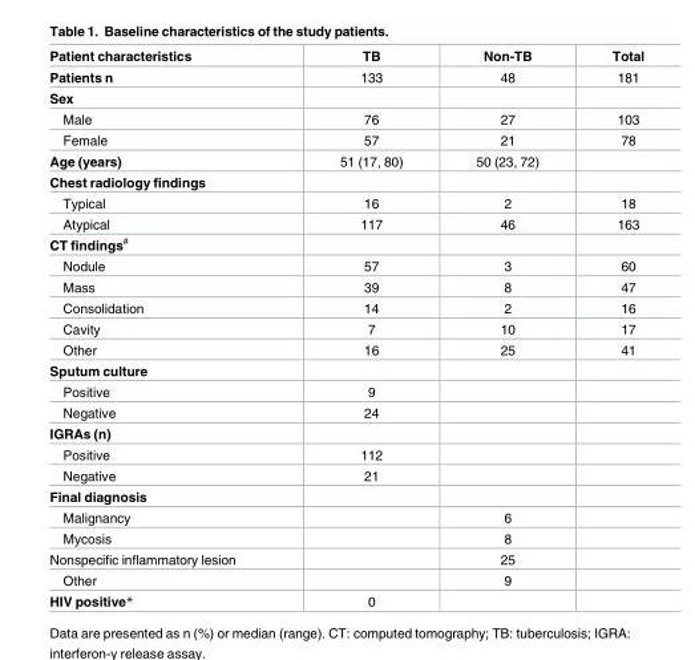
<table><thead><tr><td>Patient characteristics</td><td>TB</td><td>Non-TB</td><td>Total</td></tr></thead><tbody><tr><td>Patients n</td><td>133</td><td>48</td><td>181</td></tr><tr><td colspan="4">Sex</td></tr><tr><td>Male</td><td>76</td><td>27</td><td>103</td></tr><tr><td>Female</td><td>57</td><td>21</td><td>78</td></tr><tr><td>Age (years)</td><td>51 (17, 80)</td><td>50 (23, 72)</td><td></td></tr><tr><td colspan="4">Chest radiology findings</td></tr><tr><td>Typical</td><td>16</td><td>2</td><td>18</td></tr><tr><td>Atypical</td><td>117</td><td>46</td><td>163</td></tr><tr><td colspan="4">CT findings<sup>#</sup></td></tr><tr><td>Nodule</td><td>57</td><td>3</td><td>60</td></tr><tr><td>Mass</td><td>39</td><td>8</td><td>47</td></tr><tr><td>Consolidation</td><td>14</td><td>2</td><td>16</td></tr><tr><td>Cavity</td><td>7</td><td>10</td><td>17</td></tr><tr><td>Other</td><td>16</td><td>25</td><td>41</td></tr><tr><td colspan="4">Sputum culture</td></tr><tr><td>Positive</td><td>9</td><td></td><td></td></tr><tr><td>Negative</td><td>24</td><td></td><td></td></tr><tr><td colspan="4">IGRAs (n)</td></tr><tr><td>Positive</td><td>112</td><td></td><td></td></tr><tr><td>Negative</td><td>21</td><td></td><td></td></tr><tr><td colspan="4">Final diagnosis</td></tr><tr><td>Malignancy</td><td></td><td>6</td><td></td></tr><tr><td>Mycosis</td><td></td><td>8</td><td></td></tr><tr><td>Nonspecific inflammatory lesion</td><td></td><td>25</td><td></td></tr><tr><td>Other</td><td></td><td>9</td><td></td></tr><tr><td>HIV positive*</td><td>0</td><td></td><td></td></tr></tbody></table>